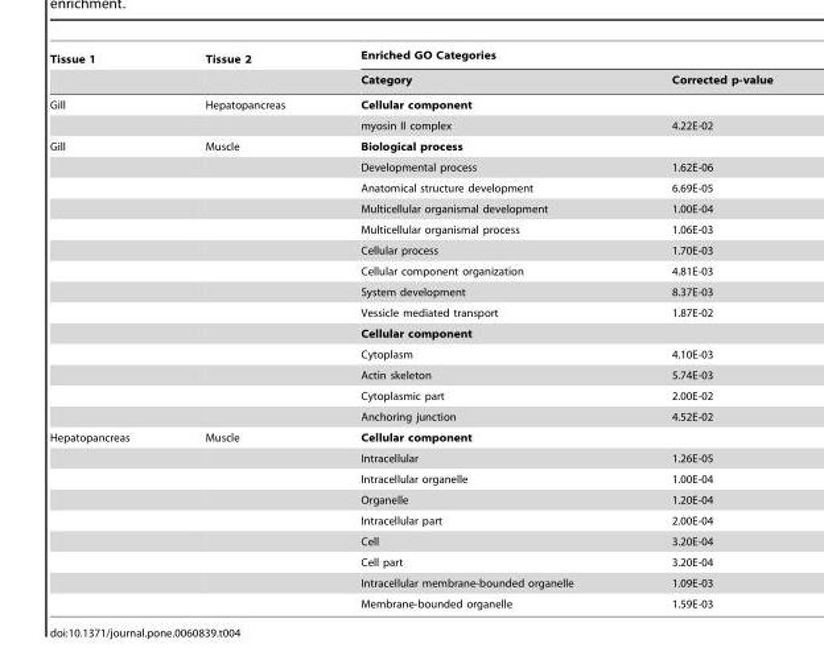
<table><thead><tr><td rowspan="2">Tissue 1</td><td rowspan="2">Tissue 2</td><td colspan="2">Enriched GO Categories</td></tr><tr><td>Category</td><td>Corrected p-value</td></tr></thead><tbody><tr><td rowspan="2">Gill</td><td>Hepatopancreas</td><td>Cellular component</td><td></td></tr><tr><td></td><td>myosin II complex</td><td>4.22E-02</td></tr><tr><td rowspan="14">Gill</td><td>Muscle</td><td>Biological process</td><td></td></tr><tr><td></td><td>Developmental process</td><td>1.62E-06</td></tr><tr><td></td><td>Anatomical structure development</td><td>6.69E-05</td></tr><tr><td></td><td>Multicellular organismal development</td><td>1.00E-04</td></tr><tr><td></td><td>Multicellular organismal process</td><td>1.06E-03</td></tr><tr><td></td><td>Cellular process</td><td>1.70E-03</td></tr><tr><td></td><td>Cellular component organization</td><td>4.81E-03</td></tr><tr><td></td><td>System development</td><td>8.37E-03</td></tr><tr><td></td><td>Vessicle mediated transport</td><td>1.87E-02</td></tr><tr><td></td><td>Cellular component</td><td></td></tr><tr><td></td><td>Cytoplasm</td><td>4.10E-03</td></tr><tr><td></td><td>Actin skeleton</td><td>5.74E-03</td></tr><tr><td></td><td>Cytoplasmic part</td><td>2.00E-02</td></tr><tr><td></td><td>Anchoring junction</td><td>4.52E-02</td></tr><tr><td rowspan="9">Hepatopancreas</td><td>Muscle</td><td>Cellular component</td><td></td></tr><tr><td></td><td>Intracellular</td><td>1.26E-05</td></tr><tr><td></td><td>Intracellular organelle</td><td>1.00E-04</td></tr><tr><td></td><td>Organelle</td><td>1.20E-04</td></tr><tr><td></td><td>Intracellular part</td><td>2.00E-04</td></tr><tr><td></td><td>Cell</td><td>3.20E-04</td></tr><tr><td></td><td>Cell part</td><td>3.20E-04</td></tr><tr><td></td><td>Intracellular membrane-bounded organelle</td><td>1.09E-03</td></tr><tr><td></td><td>Membrane-bounded organelle</td><td>1.59E-03</td></tr></tbody></table>